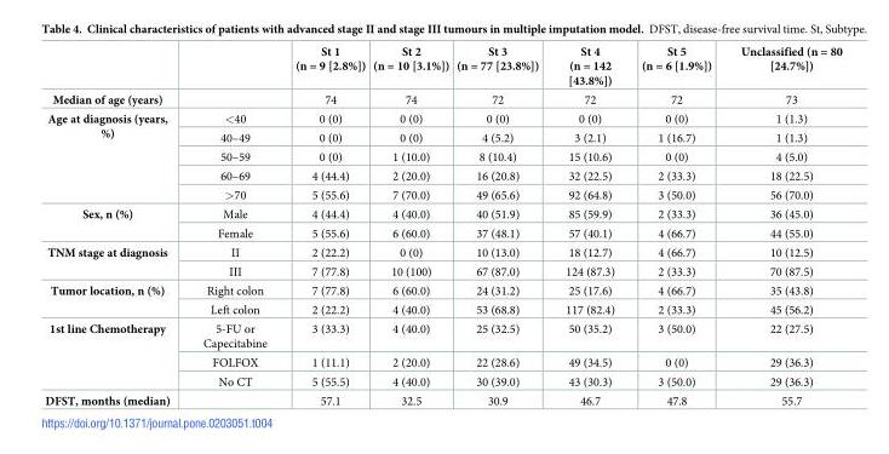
<table><thead><tr><td></td><td></td><td>St 1 (n = 9 [2.8%])</td><td>St 2 (n = 10 [3.1%])</td><td>St 3 (n = 77 [23.8%])</td><td>St 4 (n = 142 [43.8%])</td><td>St 5 (n = 6 [1.9%])</td><td>Unclassified (n = 80 [24.7%])</td></tr></thead><tbody><tr><td>Median of age (years)</td><td></td><td>74</td><td>74</td><td>72</td><td>72</td><td>72</td><td>73</td></tr><tr><td rowspan="5">Age at diagnosis (years, %)</td><td>&lt;40</td><td>0 (0)</td><td>0 (0)</td><td>0 (0)</td><td>0 (0)</td><td>0 (0)</td><td>1 (1.3)</td></tr><tr><td>40–49</td><td>0 (0)</td><td>0 (0)</td><td>4 (5.2)</td><td>3 (2.1)</td><td>1 (16.7)</td><td>1 (1.3)</td></tr><tr><td>50–59</td><td>0 (0)</td><td>1 (10.0)</td><td>8 (10.4)</td><td>15 (10.6)</td><td>0 (0)</td><td>4 (5.0)</td></tr><tr><td>60–69</td><td>4 (44.4)</td><td>2 (20.0)</td><td>16 (20.8)</td><td>32 (22.5)</td><td>2 (33.3)</td><td>18 (22.5)</td></tr><tr><td>&gt;70</td><td>5 (55.6)</td><td>7 (70.0)</td><td>49 (65.6)</td><td>92 (64.8)</td><td>3 (50.0)</td><td>56 (70.0)</td></tr><tr><td rowspan="2">Sex, n (%)</td><td>Male</td><td>4 (44.4)</td><td>4 (40.0)</td><td>40 (51.9)</td><td>85 (59.9)</td><td>2 (33.3)</td><td>36 (45.0)</td></tr><tr><td>Female</td><td>5 (55.6)</td><td>6 (60.0)</td><td>37 (48.1)</td><td>57 (40.1)</td><td>4 (66.7)</td><td>44 (55.0)</td></tr><tr><td rowspan="2">TNM stage at diagnosis</td><td>II</td><td>2 (22.2)</td><td>0 (0)</td><td>10 (13.0)</td><td>18 (12.7)</td><td>4 (66.7)</td><td>10 (12.5)</td></tr><tr><td>III</td><td>7 (77.8)</td><td>10 (100)</td><td>67 (87.0)</td><td>124 (87.3)</td><td>2 (33.3)</td><td>70 (87.5)</td></tr><tr><td rowspan="2">Tumor location, n (%)</td><td>Right colon</td><td>7 (77.8)</td><td>6 (60.0)</td><td>24 (31.2)</td><td>25 (17.6)</td><td>4 (66.7)</td><td>35 (43.8)</td></tr><tr><td>Left colon</td><td>2 (22.2)</td><td>4 (40.0)</td><td>53 (68.8)</td><td>117 (82.4)</td><td>2 (33.3)</td><td>45 (56.2)</td></tr><tr><td rowspan="3">1st line Chemotherapy</td><td>5-FU or Capecitabine</td><td>3 (33.3)</td><td>4 (40.0)</td><td>25 (32.5)</td><td>50 (35.2)</td><td>3 (50.0)</td><td>22 (27.5)</td></tr><tr><td>FOLFOX</td><td>1 (11.1)</td><td>2 (20.0)</td><td>22 (28.6)</td><td>49 (34.5)</td><td>0 (0)</td><td>29 (36.3)</td></tr><tr><td>No CT</td><td>5 (55.5)</td><td>4 (40.0)</td><td>30 (39.0)</td><td>43 (30.3)</td><td>3 (50.0)</td><td>29 (36.3)</td></tr><tr><td>DFST, months (median)</td><td></td><td>57.1</td><td>32.5</td><td>30.9</td><td>46.7</td><td>47.8</td><td>55.7</td></tr></tbody></table>